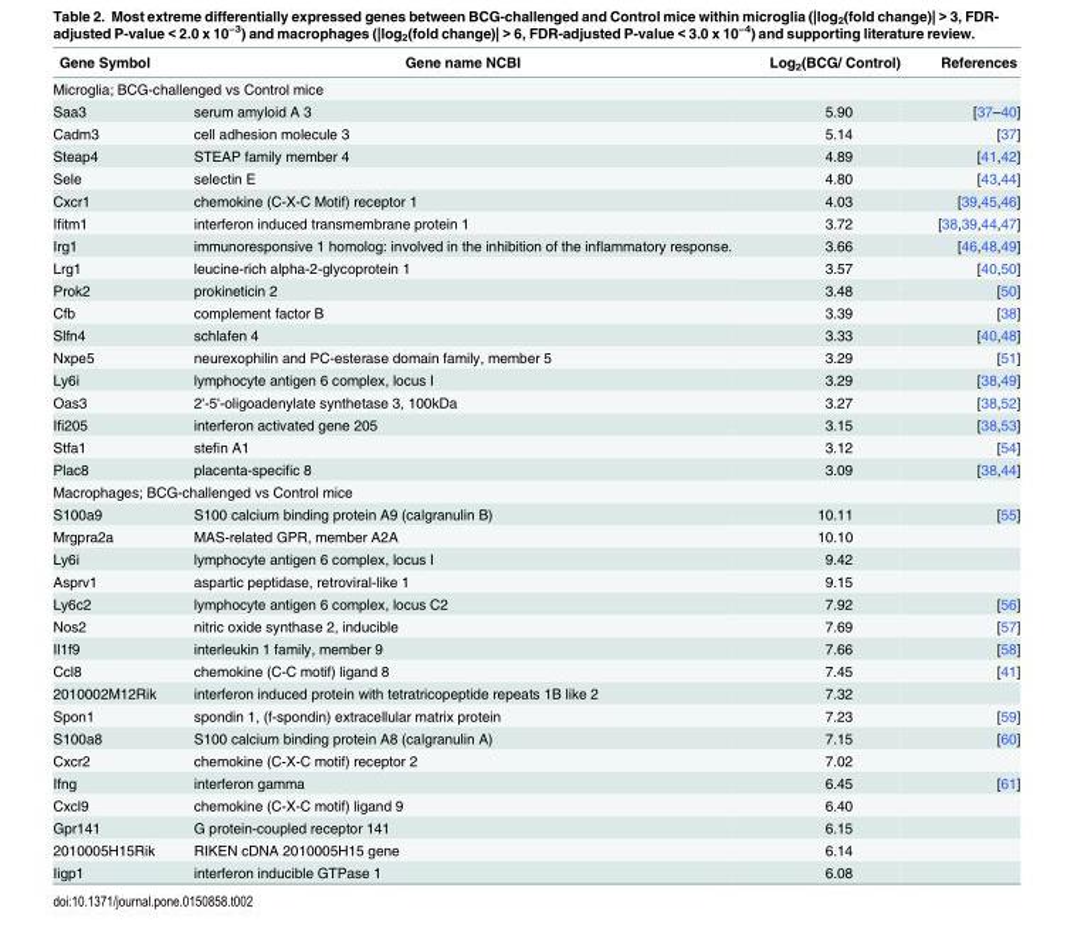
<table><thead><tr><td>Gene Symbol</td><td>Gene name NCBI</td><td>Log<sub>2</sub>(BCG/ Control)</td><td>References</td></tr></thead><tbody><tr><td colspan="4">Microglia; BCG-challenged vs Control mice</td></tr><tr><td>Saa3</td><td>serum amyloid A 3</td><td>5.90</td><td>[37–40]</td></tr><tr><td>Cadm3</td><td>cell adhesion molecule 3</td><td>5.14</td><td>[37]</td></tr><tr><td>Steap4</td><td>STEAP family member 4</td><td>4.89</td><td>[41,42]</td></tr><tr><td>Sele</td><td>selectin E</td><td>4.80</td><td>[43,44]</td></tr><tr><td>Cxcr1</td><td>chemokine (C-X-C Motif) receptor 1</td><td>4.03</td><td>[39,45,46]</td></tr><tr><td>Ifitm1</td><td>interferon induced transmembrane protein 1</td><td>3.72</td><td>[38,39,44,47]</td></tr><tr><td>Irg1</td><td>immunoresponsive 1 homolog: involved in the inhibition of the inflammatory response.</td><td>3.66</td><td>[46,48,49]</td></tr><tr><td>Lrg1</td><td>leucine-rich alpha-2-glycoprotein 1</td><td>3.57</td><td>[40,50]</td></tr><tr><td>Prok2</td><td>prokineticin 2</td><td>3.48</td><td>[50]</td></tr><tr><td>Cfb</td><td>complement factor B</td><td>3.39</td><td>[38]</td></tr><tr><td>Slfn4</td><td>schlafen 4</td><td>3.33</td><td>[40,48]</td></tr><tr><td>Nxpe5</td><td>neurexophilin and PC-esterase domain family, member 5</td><td>3.29</td><td>[51]</td></tr><tr><td>Ly6i</td><td>lymphocyte antigen 6 complex, locus I</td><td>3.29</td><td>[38,49]</td></tr><tr><td>Oas3</td><td>2&#x27;-5&#x27;-oligoadenylate synthetase 3, 100kDa</td><td>3.27</td><td>[38,52]</td></tr><tr><td>Ifi205</td><td>interferon activated gene 205</td><td>3.15</td><td>[38,53]</td></tr><tr><td>Stfa1</td><td>stefin A1</td><td>3.12</td><td>[54]</td></tr><tr><td>Plac8</td><td>placenta-specific 8</td><td>3.09</td><td>[38,44]</td></tr><tr><td colspan="4">Macrophages; BCG-challenged vs Control mice</td></tr><tr><td>S100a9</td><td>S100 calcium binding protein A9 (calgranulin B)</td><td>10.11</td><td>[55]</td></tr><tr><td>Mrgpra2a</td><td>MAS-related GPR, member A2A</td><td>10.10</td><td></td></tr><tr><td>Ly6i</td><td>lymphocyte antigen 6 complex, locus I</td><td>9.42</td><td></td></tr><tr><td>Asprv1</td><td>aspartic peptidase, retroviral-like 1</td><td>9.15</td><td></td></tr><tr><td>Ly6c2</td><td>lymphocyte antigen 6 complex, locus C2</td><td>7.92</td><td>[56]</td></tr><tr><td>Nos2</td><td>nitric oxide synthase 2, inducible</td><td>7.69</td><td>[57]</td></tr><tr><td>Il1f9</td><td>interleukin 1 family, member 9</td><td>7.66</td><td>[58]</td></tr><tr><td>Ccl8</td><td>chemokine (C-C motif) ligand 8</td><td>7.45</td><td>[41]</td></tr><tr><td>2010002M12Rik</td><td>interferon induced protein with tetratricopeptide repeats 1B like 2</td><td>7.32</td><td></td></tr><tr><td>Spon1</td><td>spondin 1, (f-spondin) extracellular matrix protein</td><td>7.23</td><td>[59]</td></tr><tr><td>S100a8</td><td>S100 calcium binding protein A8 (calgranulin A)</td><td>7.15</td><td>[60]</td></tr><tr><td>Cxcr2</td><td>chemokine (C-X-C motif) receptor 2</td><td>7.02</td><td></td></tr><tr><td>Ifng</td><td>interferon gamma</td><td>6.45</td><td>[61]</td></tr><tr><td>Cxcl9</td><td>chemokine (C-X-C motif) ligand 9</td><td>6.40</td><td></td></tr><tr><td>Gpr141</td><td>G protein-coupled receptor 141</td><td>6.15</td><td></td></tr><tr><td>2010005H15Rik</td><td>RIKEN cDNA 2010005H15 gene</td><td>6.14</td><td></td></tr><tr><td>Iigp1</td><td>interferon inducible GTPase 1</td><td>6.08</td><td></td></tr></tbody></table>